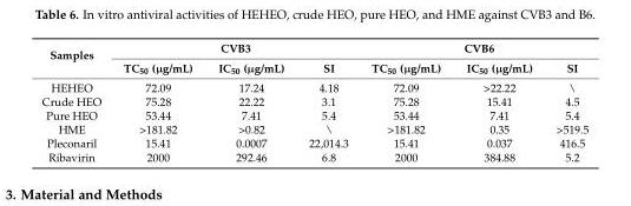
<table><thead><tr><td rowspan="2">Samples</td><td colspan="3">CVB3</td><td colspan="3">CVB6</td></tr><tr><td>TC<sub>50</sub> (µg/mL)</td><td>IC<sub>50</sub> (µg/mL)</td><td>SI</td><td>TC<sub>50</sub> (µg/mL)</td><td>IC<sub>50</sub> (µg/mL)</td><td>SI</td></tr></thead><tbody><tr><td>HEHEO</td><td>72.09</td><td>17.24</td><td>4.18</td><td>72.09</td><td>&gt;22.22</td><td>\</td></tr><tr><td>Crude HEO</td><td>75.28</td><td>22.22</td><td>3.1</td><td>75.28</td><td>15.41</td><td>4.5</td></tr><tr><td>Pure HEO</td><td>53.44</td><td>7.41</td><td>5.4</td><td>53.44</td><td>7.41</td><td>5.4</td></tr><tr><td>HME</td><td>&gt;181.82</td><td>&gt;0.82</td><td>\</td><td>&gt;181.82</td><td>0.35</td><td>&gt;519.5</td></tr><tr><td>Pleconaril</td><td>15.41</td><td>0.0007</td><td>22,014.3</td><td>15.41</td><td>0.037</td><td>416.5</td></tr><tr><td>Ribavirin</td><td>2000</td><td>292.46</td><td>6.8</td><td>2000</td><td>384.88</td><td>5.2</td></tr></tbody></table>